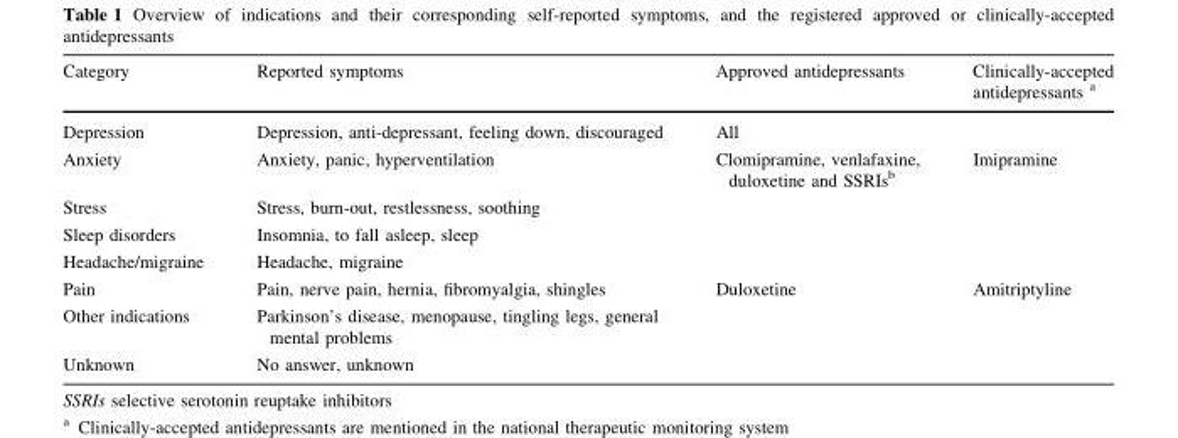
<table><thead><tr><td>Category</td><td>Reported symptoms</td><td>Approved antidepressants</td><td>Clinically-accepted antidepressants <sup>a</sup></td></tr></thead><tbody><tr><td>Depression</td><td>Depression, anti-depressant, feeling down, discouraged</td><td>All</td><td></td></tr><tr><td>Anxiety</td><td>Anxiety, panic, hyperventilation</td><td>Clomipramine, venlafaxine, duloxetine and SSRIs<sup>b</sup></td><td>Imipramine</td></tr><tr><td>Stress</td><td>Stress, burn-out, restlessness, soothing</td><td></td><td></td></tr><tr><td>Sleep disorders</td><td>Insomnia, to fall asleep, sleep</td><td></td><td></td></tr><tr><td>Headache/migraine</td><td>Headache, migraine</td><td></td><td></td></tr><tr><td>Pain</td><td>Pain, nerve pain, hernia, fibromyalgia, shingles</td><td>Duloxetine</td><td>Amitriptyline</td></tr><tr><td>Other indications</td><td>Parkinson’s disease, menopause, tingling legs, general mental problems</td><td></td><td></td></tr><tr><td>Unknown</td><td>No answer, unknown</td><td></td><td></td></tr></tbody></table>